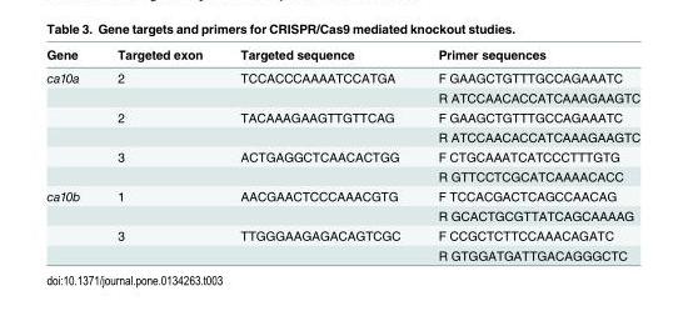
<table><thead><tr><td>Gene</td><td>Targeted exon</td><td>Targeted sequence</td><td>Primer sequences</td></tr></thead><tbody><tr><td rowspan="6">ca10a</td><td>2</td><td>TCCACCCAAAATCCATGA</td><td>F GAAGCTGTTTGCCAGAAATC</td></tr><tr><td></td><td></td><td>R ATCCAACACCATCAAAGAAGTC</td></tr><tr><td>2</td><td>TACAAAGAAGTTGTTCAG</td><td>F GAAGCTGTTTGCCAGAAATC</td></tr><tr><td></td><td></td><td>R ATCCAACACCATCAAAGAAGTC</td></tr><tr><td>3</td><td>ACTGAGGCTCAACACTGG</td><td>F CTGCAAATCATCCCTTTGTG</td></tr><tr><td></td><td></td><td>R GTTCCTCGCATCAAAACACC</td></tr><tr><td rowspan="4">ca10b</td><td>1</td><td>AACGAACTCCCAAACGTG</td><td>F TCCACGACTCAGCCAACAG</td></tr><tr><td></td><td></td><td>R GCACTGCGTTATCAGCAAAAG</td></tr><tr><td>3</td><td>TTGGGAAGAGACAGTCGC</td><td>F CCGCTCTTCCAAACAGATC</td></tr><tr><td></td><td></td><td>R GTGGATGATTGACAGGGCTC</td></tr></tbody></table>